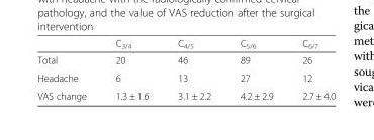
<table><thead><tr><td></td><td>C<sub>3/4</sub></td><td>C<sub>4/5</sub></td><td>C<sub>5/6</sub></td><td>C<sub>6/7</sub></td></tr></thead><tbody><tr><td>Total</td><td>20</td><td>46</td><td>89</td><td>26</td></tr><tr><td>Headache</td><td>6</td><td>13</td><td>27</td><td>12</td></tr><tr><td>VAS change</td><td>1.3 ± 1.6</td><td>3.1 ± 2.2</td><td>4.2 ± 2.9</td><td>2.7 ± 4.0</td></tr></tbody></table>